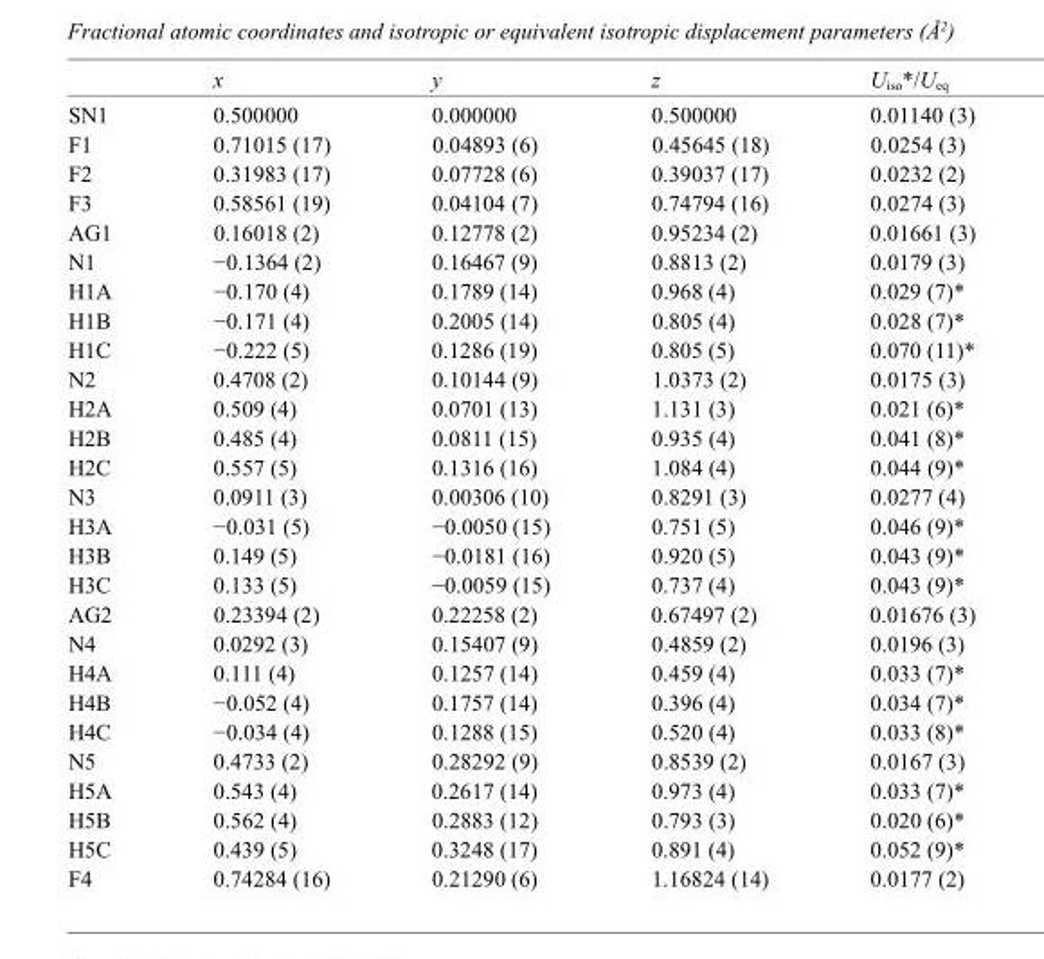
<table><thead><tr><td></td><td>x</td><td>y</td><td>z</td><td>U<sub>iso</sub>*/U<sub>eq</sub></td></tr></thead><tbody><tr><td>SN1</td><td>0.500000</td><td>0.000000</td><td>0.500000</td><td>0.01140 (3)</td></tr><tr><td>F1</td><td>0.71015 (17)</td><td>0.04893 (6)</td><td>0.45645 (18)</td><td>0.0254 (3)</td></tr><tr><td>F2</td><td>0.31983 (17)</td><td>0.07728 (6)</td><td>0.39037 (17)</td><td>0.0232 (2)</td></tr><tr><td>F3</td><td>0.58561 (19)</td><td>0.04104 (7)</td><td>0.74794 (16)</td><td>0.0274 (3)</td></tr><tr><td>AG1</td><td>0.16018 (2)</td><td>0.12778 (2)</td><td>0.95234 (2)</td><td>0.01661 (3)</td></tr><tr><td>N1</td><td>−0.1364 (2)</td><td>0.16467 (9)</td><td>0.8813 (2)</td><td>0.0179 (3)</td></tr><tr><td>H1A</td><td>−0.170 (4)</td><td>0.1789 (14)</td><td>0.968 (4)</td><td>0.029 (7)*</td></tr><tr><td>H1B</td><td>−0.171 (4)</td><td>0.2005 (14)</td><td>0.805 (4)</td><td>0.028 (7)*</td></tr><tr><td>H1C</td><td>−0.222 (5)</td><td>0.1286 (19)</td><td>0.805 (5)</td><td>0.070 (11)*</td></tr><tr><td>N2</td><td>0.4708 (2)</td><td>0.10144 (9)</td><td>1.0373 (2)</td><td>0.0175 (3)</td></tr><tr><td>H2A</td><td>0.509 (4)</td><td>0.0701 (13)</td><td>1.131 (3)</td><td>0.021 (6)*</td></tr><tr><td>H2B</td><td>0.485 (4)</td><td>0.0811 (15)</td><td>0.935 (4)</td><td>0.041 (8)*</td></tr><tr><td>H2C</td><td>0.557 (5)</td><td>0.1316 (16)</td><td>1.084 (4)</td><td>0.044 (9)*</td></tr><tr><td>N3</td><td>0.0911 (3)</td><td>0.00306 (10)</td><td>0.8291 (3)</td><td>0.0277 (4)</td></tr><tr><td>H3A</td><td>−0.031 (5)</td><td>−0.0050 (15)</td><td>0.751 (5)</td><td>0.046 (9)*</td></tr><tr><td>H3B</td><td>0.149 (5)</td><td>−0.0181 (16)</td><td>0.920 (5)</td><td>0.043 (9)*</td></tr><tr><td>H3C</td><td>0.133 (5)</td><td>−0.0059 (15)</td><td>0.737 (4)</td><td>0.043 (9)*</td></tr><tr><td>AG2</td><td>0.23394 (2)</td><td>0.22258 (2)</td><td>0.67497 (2)</td><td>0.01676 (3)</td></tr><tr><td>N4</td><td>0.0292 (3)</td><td>0.15407 (9)</td><td>0.4859 (2)</td><td>0.0196 (3)</td></tr><tr><td>H4A</td><td>0.111 (4)</td><td>0.1257 (14)</td><td>0.459 (4)</td><td>0.033 (7)*</td></tr><tr><td>H4B</td><td>−0.052 (4)</td><td>0.1757 (14)</td><td>0.396 (4)</td><td>0.034 (7)*</td></tr><tr><td>H4C</td><td>−0.034 (4)</td><td>0.1288 (15)</td><td>0.520 (4)</td><td>0.033 (8)*</td></tr><tr><td>N5</td><td>0.4733 (2)</td><td>0.28292 (9)</td><td>0.8539 (2)</td><td>0.0167 (3)</td></tr><tr><td>H5A</td><td>0.543 (4)</td><td>0.2617 (14)</td><td>0.973 (4)</td><td>0.033 (7)*</td></tr><tr><td>H5B</td><td>0.562 (4)</td><td>0.2883 (12)</td><td>0.793 (3)</td><td>0.020 (6)*</td></tr><tr><td>H5C</td><td>0.439 (5)</td><td>0.3248 (17)</td><td>0.891 (4)</td><td>0.052 (9)*</td></tr><tr><td>F4</td><td>0.74284 (16)</td><td>0.21290 (6)</td><td>1.16824 (14)</td><td>0.0177 (2)</td></tr></tbody></table>